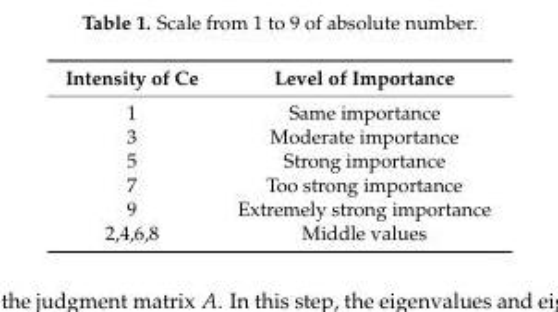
<table><thead><tr><td>Intensity of Ce</td><td>Level of Importance</td></tr></thead><tbody><tr><td>1</td><td>Same importance</td></tr><tr><td>3</td><td>Moderate importance</td></tr><tr><td>5</td><td>Strong importance</td></tr><tr><td>7</td><td>Too strong importance</td></tr><tr><td>9</td><td>Extremely strong importance</td></tr><tr><td>2,4,6,8</td><td>Middle values</td></tr></tbody></table>